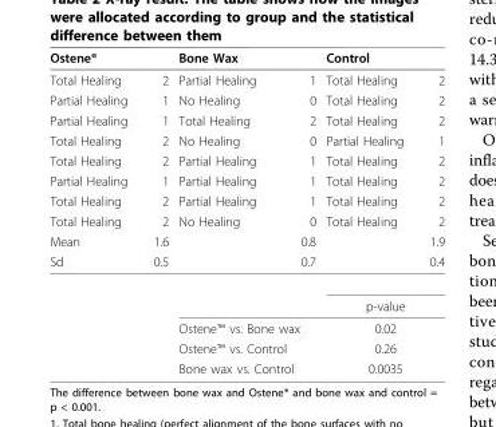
<table><thead><tr><td>Ostene<sup>®</sup></td><td></td><td>Bone Wax</td><td></td><td>Control</td><td></td></tr></thead><tbody><tr><td>Total Healing</td><td>2</td><td>Partial Healing</td><td>1</td><td>Total Healing</td><td>2</td></tr><tr><td>Partial Healing</td><td>1</td><td>No Healing</td><td>0</td><td>Total Healing</td><td>2</td></tr><tr><td>Partial Healing</td><td>1</td><td>Total Healing</td><td>2</td><td>Total Healing</td><td>2</td></tr><tr><td>Total Healing</td><td>2</td><td>No Healing</td><td>0</td><td>Partial Healing</td><td>1</td></tr><tr><td>Total Healing</td><td>2</td><td>Partial Healing</td><td>1</td><td>Total Healing</td><td>2</td></tr><tr><td>Partial Healing</td><td>1</td><td>Partial Healing</td><td>1</td><td>Total Healing</td><td>2</td></tr><tr><td>Total Healing</td><td>2</td><td>Partial Healing</td><td>1</td><td>Total Healing</td><td>2</td></tr><tr><td>Total Healing</td><td>2</td><td>No Healing</td><td>0</td><td>Total Healing</td><td>2</td></tr><tr><td>Mean</td><td>1.6</td><td></td><td>0.8</td><td></td><td>1.9</td></tr><tr><td rowspan="5">Sd</td><td>0.5</td><td></td><td>0.7</td><td></td><td>0.4</td></tr><tr><td></td><td></td><td></td><td colspan="2">p-value</td></tr><tr><td></td><td colspan="2">Ostene™ vs. Bone wax</td><td colspan="2">0.02</td></tr><tr><td></td><td colspan="2">Ostene™ vs. Control</td><td colspan="2">0.26</td></tr><tr><td></td><td colspan="2">Bone wax vs. Control</td><td colspan="2">0.0035</td></tr></tbody></table>